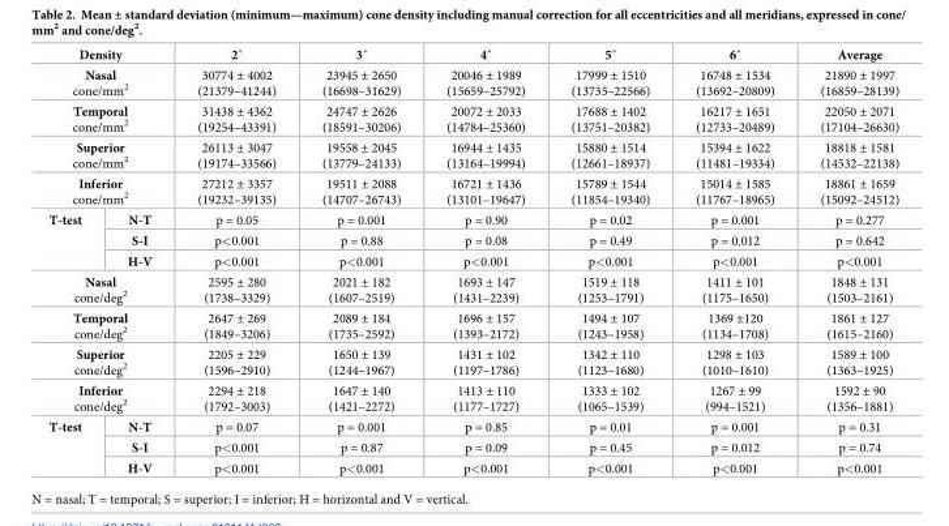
<table><thead><tr><td colspan="2">Density</td><td>2˚</td><td>3˚</td><td>4˚</td><td>5˚</td><td>6˚</td><td>Average</td></tr></thead><tbody><tr><td colspan="2">Nasal cone/mm<sup>2</sup></td><td>30774 ± 4002 (21379–41244)</td><td>23945 ± 2650 (16698–31629)</td><td>20046 ± 1989 (15659–25792)</td><td>17999 ± 1510 (13735–22566)</td><td>16748 ± 1534 (13692–20809)</td><td>21890 ± 1997 (16859–28139)</td></tr><tr><td colspan="2">Temporal cone/mm<sup>2</sup></td><td>31438 ± 4362 (19254–43391)</td><td>24747 ± 2626 (18591–30206)</td><td>20072 ± 2033 (14784–25360)</td><td>17688 ± 1402 (13751–20382)</td><td>16217 ± 1651 (12733–20489)</td><td>22050 ± 2071 (17104–26630)</td></tr><tr><td colspan="2">Superior cone/mm<sup>2</sup></td><td>26113 ± 3047 (19174–33566)</td><td>19558 ± 2045 (13779–24133)</td><td>16944 ± 1435 (13164–19994)</td><td>15880 ± 1514 (12661–18937)</td><td>15394 ± 1622 (11481–19334)</td><td>18818 ± 1581 (14532–22138)</td></tr><tr><td colspan="2">Inferior cone/mm<sup>2</sup></td><td>27212 ± 3357 (19232–39135)</td><td>19511 ± 2088 (14707–26743)</td><td>16721 ± 1436 (13101–19647)</td><td>15789 ± 1544 (11854–19340)</td><td>15014 ± 1585 (11767–18965)</td><td>18861 ± 1659 (15092–24512)</td></tr><tr><td rowspan="3">T-test</td><td>N-T</td><td>p = 0.05</td><td>p = 0.001</td><td>p = 0.90</td><td>p = 0.02</td><td>p = 0.001</td><td>p = 0.277</td></tr><tr><td>S-I</td><td>p&lt;0.001</td><td>p = 0.88</td><td>p = 0.08</td><td>p = 0.49</td><td>p = 0.012</td><td>p = 0.642</td></tr><tr><td>H-V</td><td>p&lt;0.001</td><td>p&lt;0.001</td><td>p&lt;0.001</td><td>p&lt;0.001</td><td>p&lt;0.001</td><td>p&lt;0.001</td></tr><tr><td colspan="2">Nasal cone/deg<sup>2</sup></td><td>2595 ± 280 (1738–3329)</td><td>2021 ± 182 (1607–2519)</td><td>1693 ± 147 (1431–2239)</td><td>1519 ± 118 (1253–1791)</td><td>1411 ± 101 (1175–1650)</td><td>1848 ± 131 (1503–2161)</td></tr><tr><td colspan="2">Temporal cone/deg<sup>2</sup></td><td>2647 ± 269 (1849–3206)</td><td>2089 ± 184 (1735–2592)</td><td>1696 ± 157 (1393–2172)</td><td>1494 ± 107 (1243–1958)</td><td>1369 ±120 (1134–1708)</td><td>1861 ± 127 (1615–2160)</td></tr><tr><td colspan="2">Superior cone/deg<sup>2</sup></td><td>2205 ± 229 (1596–2910)</td><td>1650 ± 139 (1244–1967)</td><td>1431 ± 102 (1197–1786)</td><td>1342 ± 110 (1123–1680)</td><td>1298 ± 103 (1010–1610)</td><td>1589 ± 100 (1363–1925)</td></tr><tr><td colspan="2">Inferior cone/deg<sup>2</sup></td><td>2294 ± 218 (1792–3003)</td><td>1647 ± 140 (1421–2272)</td><td>1413 ± 110 (1177–1727)</td><td>1333 ± 102 (1065–1539)</td><td>1267 ± 99 (994–1521)</td><td>1592 ± 90 (1356–1881)</td></tr><tr><td rowspan="3">T-test</td><td>N-T</td><td>p = 0.07</td><td>p = 0.001</td><td>p = 0.85</td><td>p = 0.01</td><td>p = 0.001</td><td>p = 0.31</td></tr><tr><td>S-I</td><td>p&lt;0.001</td><td>p = 0.87</td><td>p = 0.09</td><td>p = 0.45</td><td>p = 0.012</td><td>p = 0.74</td></tr><tr><td>H-V</td><td>p&lt;0.001</td><td>p&lt;0.001</td><td>p&lt;0.001</td><td>p&lt;0.001</td><td>p&lt;0.001</td><td>p&lt;0.001</td></tr></tbody></table>